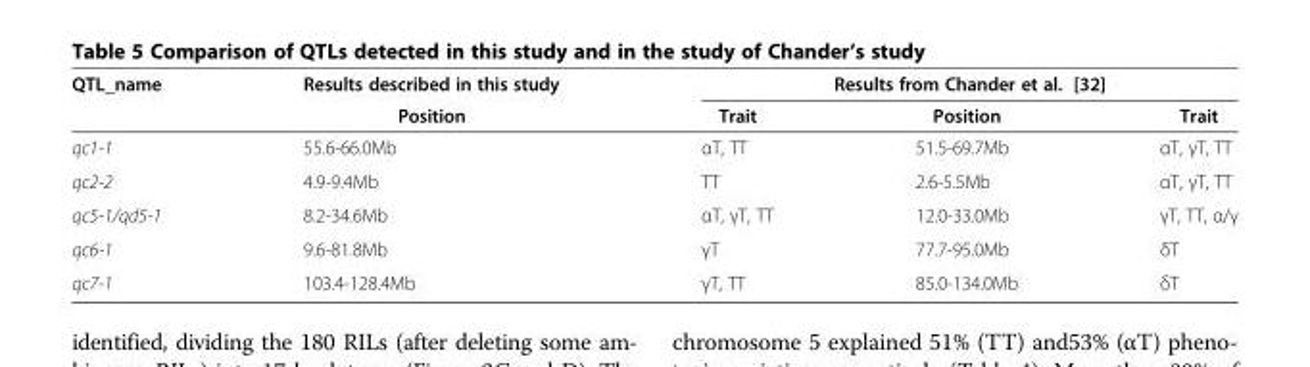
<table><thead><tr><td rowspan="2">QTL_name</td><td rowspan="2">Results described in this study Position</td><td colspan="3">Results from Chander et al. [32]</td></tr><tr><td>Trait</td><td>Position</td><td>Trait</td></tr></thead><tbody><tr><td>qc1-1</td><td>55.6-66.0Mb</td><td>αT, TT</td><td>51.5-69.7Mb</td><td>αT, γT, TT</td></tr><tr><td>qc2-2</td><td>4.9-9.4Mb</td><td>TT</td><td>2.6-5.5Mb</td><td>αT, γT, TT</td></tr><tr><td>qc5-1/qd5-1</td><td>8.2-34.6Mb</td><td>αT, γT, TT</td><td>12.0-33.0Mb</td><td>γT, TT, α/γ</td></tr><tr><td>qc6-1</td><td>9.6-81.8Mb</td><td>γT</td><td>77.7-95.0Mb</td><td>δT</td></tr><tr><td>qc7-1</td><td>103.4-128.4Mb</td><td>γT, TT</td><td>85.0-134.0Mb</td><td>δT</td></tr></tbody></table>